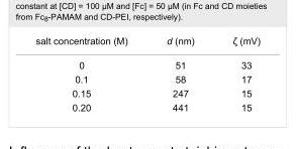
<table><tbody><tr><td>salt concentration (M)</td><td>d (nm)</td><td>ζ (mV)</td></tr><tr><td>0</td><td>51</td><td>33</td></tr><tr><td>0.1</td><td>58</td><td>17</td></tr><tr><td>0.15</td><td>247</td><td>15</td></tr><tr><td>0.20</td><td>441</td><td>15</td></tr></tbody></table>